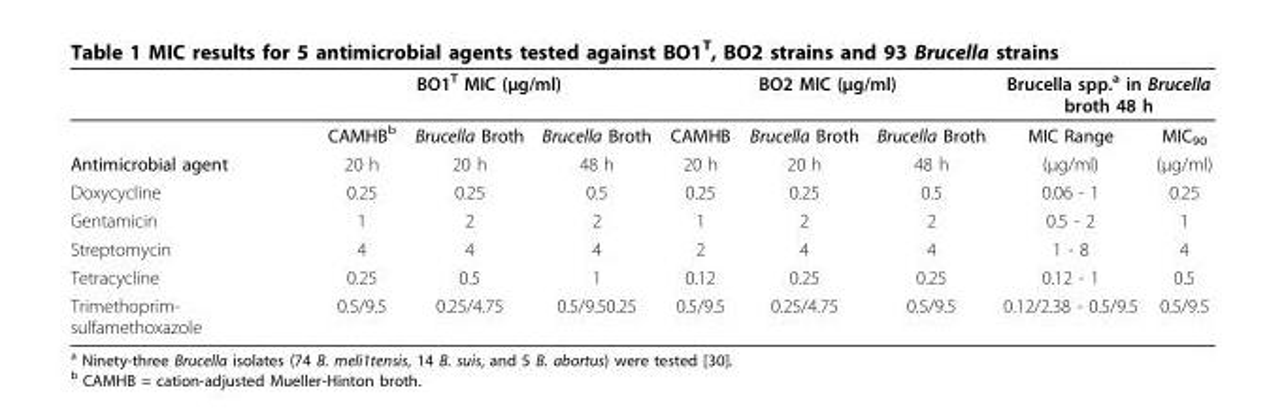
<table><thead><tr><td rowspan="2"></td><td colspan="3">BO1<sup>T</sup> MIC (μg/ml)</td><td colspan="3">BO2 MIC (μg/ml)</td><td colspan="2">Brucella spp.<sup>a</sup> in Brucella broth 48 h</td></tr><tr><td>CAMHB<sup>b</sup></td><td>Brucella Broth</td><td>Brucella Broth</td><td>CAMHB</td><td>Brucella Broth</td><td>Brucella Broth</td><td>MIC Range</td><td>MIC<sub>90</sub></td></tr></thead><tbody><tr><td>Antimicrobial agent</td><td>20 h</td><td>20 h</td><td>48 h</td><td>20 h</td><td>20 h</td><td>48 h</td><td>(μg/ml)</td><td>(μg/ml)</td></tr><tr><td>Doxycycline</td><td>0.25</td><td>0.25</td><td>0.5</td><td>0.25</td><td>0.25</td><td>0.5</td><td>0.06 - 1</td><td>0.25</td></tr><tr><td>Gentamicin</td><td>1</td><td>2</td><td>2</td><td>1</td><td>2</td><td>2</td><td>0.5 - 2</td><td>1</td></tr><tr><td>Streptomycin</td><td>4</td><td>4</td><td>4</td><td>2</td><td>4</td><td>4</td><td>1 - 8</td><td>4</td></tr><tr><td>Tetracycline</td><td>0.25</td><td>0.5</td><td>1</td><td>0.12</td><td>0.25</td><td>0.25</td><td>0.12 - 1</td><td>0.5</td></tr><tr><td>Trimethoprim- sulfamethoxazole</td><td>0.5/9.5</td><td>0.25/4.75</td><td>0.5/9.50.25</td><td>0.5/9.5</td><td>0.25/4.75</td><td>0.5/9.5</td><td>0.12/2.38 - 0.5/9.5</td><td>0.5/9.5</td></tr></tbody></table>